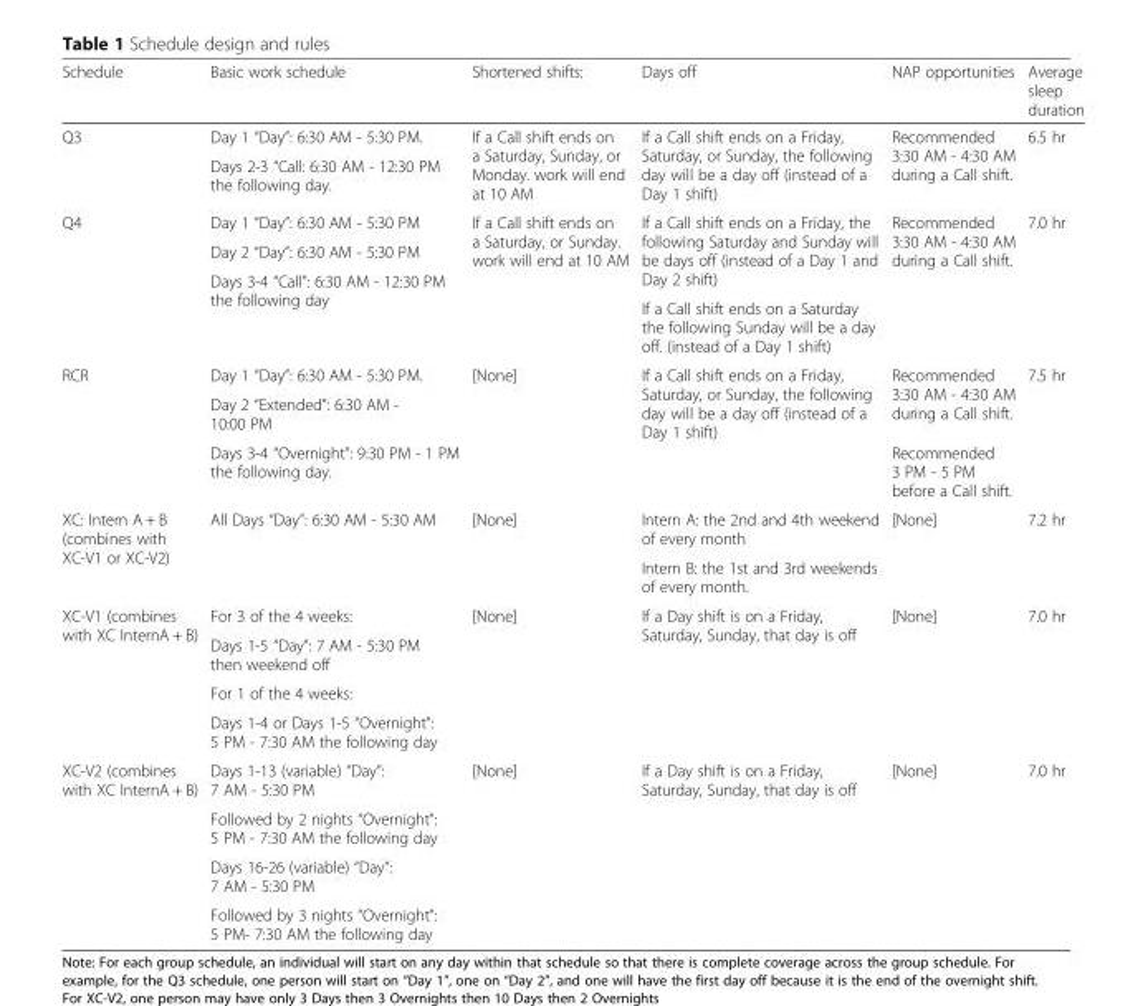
<table><thead><tr><td>Schedule</td><td>Basic work schedule</td><td>Shortened shifts:</td><td>Days off</td><td>NAP opportunities</td><td>Average sleep duration</td></tr></thead><tbody><tr><td rowspan="2">Q3</td><td>Day 1 “Day”: 6:30 AM - 5:30 PM.</td><td rowspan="2">If a Call shift ends on a Saturday, Sunday, or Monday. work will end at 10 AM</td><td rowspan="2">If a Call shift ends on a Friday, Saturday, or Sunday, the following day will be a day off (instead of a Day 1 shift)</td><td rowspan="2">Recommended 3:30 AM - 4:30 AM during a Call shift.</td><td rowspan="2">6.5 hr</td></tr><tr><td>Days 2-3 “Call: 6:30 AM - 12:30 PM the following day.</td></tr><tr><td rowspan="4">Q4</td><td>Day 1 “Day”: 6:30 AM - 5:30 PM</td><td rowspan="4">If a Call shift ends on a Saturday, or Sunday. work will end at 10 AM</td><td rowspan="3">If a Call shift ends on a Friday, the following Saturday and Sunday will be days off (instead of a Day 1 and Day 2 shift)</td><td rowspan="4">Recommended 3:30 AM - 4:30 AM during a Call shift.</td><td rowspan="4">7.0 hr</td></tr><tr><td>Day 2 “Day”: 6:30 AM - 5:30 PM</td></tr><tr><td rowspan="2">Days 3-4 “Call”: 6:30 AM - 12:30 PM the following day</td></tr><tr><td>If a Call shift ends on a Saturday the following Sunday will be a day off. (instead of a Day 1 shift)</td></tr><tr><td rowspan="3">RCR</td><td>Day 1 “Day”: 6:30 AM - 5:30 PM.</td><td rowspan="3">[None]</td><td rowspan="3">If a Call shift ends on a Friday, Saturday, or Sunday, the following day will be a day off (instead of a Day 1 shift)</td><td rowspan="2">Recommended 3:30 AM - 4:30 AM during a Call shift.</td><td rowspan="3">7.5 hr</td></tr><tr><td>Day 2 “Extended”: 6:30 AM - 10:00 PM</td></tr><tr><td>Days 3-4 “Overnight”: 9:30 PM - 1 PM the following day.</td><td>Recommended 3 PM - 5 PM before a Call shift.</td></tr><tr><td rowspan="2">XC: Intern A + B (combines with XC-V1 or XC-V2)</td><td rowspan="2">All Days “Day”: 6:30 AM - 5:30 AM</td><td rowspan="2">[None]</td><td>Intern A: the 2nd and 4th weekend of every month</td><td rowspan="2">[None]</td><td rowspan="2">7.2 hr</td></tr><tr><td>Intern B: the 1st and 3rd weekends of every month.</td></tr><tr><td rowspan="4">XC-V1 (combines with XC InternA + B)</td><td>For 3 of the 4 weeks:</td><td rowspan="4">[None]</td><td rowspan="4">If a Day shift is on a Friday, Saturday, Sunday, that day is off</td><td rowspan="4">[None]</td><td rowspan="4">7.0 hr</td></tr><tr><td>Days 1-5 “Day”: 7 AM - 5:30 PM then weekend off</td></tr><tr><td>For 1 of the 4 weeks:</td></tr><tr><td>Days 1-4 or Days 1-5 “Overnight”: 5 PM - 7:30 AM the following day</td></tr><tr><td rowspan="4">XC-V2 (combines with XC InternA + B)</td><td>Days 1-13 (variable) “Day”: 7 AM - 5:30 PM</td><td rowspan="4">[None]</td><td rowspan="4">If a Day shift is on a Friday, Saturday, Sunday, that day is off</td><td rowspan="4">[None]</td><td rowspan="4">7.0 hr</td></tr><tr><td>Followed by 2 nights “Overnight”: 5 PM - 7:30 AM the following day</td></tr><tr><td>Days 16-26 (variable) “Day”: 7 AM - 5:30 PM</td></tr><tr><td>Followed by 3 nights “Overnight”: 5 PM- 7:30 AM the following day</td></tr></tbody></table>